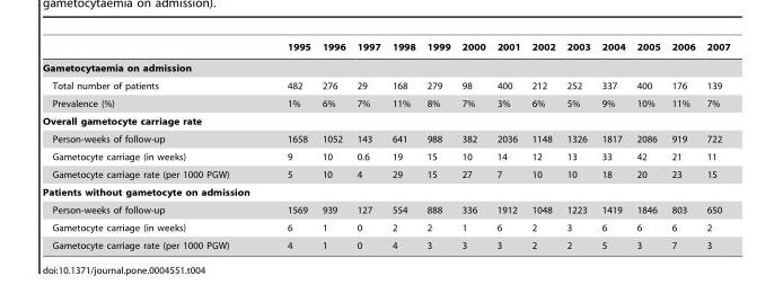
<table><thead><tr><td></td><td>1995</td><td>1996</td><td>1997</td><td>1998</td><td>1999</td><td>2000</td><td>2001</td><td>2002</td><td>2003</td><td>2004</td><td>2005</td><td>2006</td><td>2007</td></tr></thead><tbody><tr><td colspan="14">Gametocytaemia on admission</td></tr><tr><td>Total number of patients</td><td>482</td><td>276</td><td>29</td><td>168</td><td>279</td><td>98</td><td>400</td><td>212</td><td>252</td><td>337</td><td>400</td><td>176</td><td>139</td></tr><tr><td>Prevalence (%)</td><td>1%</td><td>6%</td><td>7%</td><td>11%</td><td>8%</td><td>7%</td><td>3%</td><td>6%</td><td>5%</td><td>9%</td><td>10%</td><td>11%</td><td>7%</td></tr><tr><td colspan="14">Overall gametocyte carriage rate</td></tr><tr><td>Person-weeks of follow-up</td><td>1658</td><td>1052</td><td>143</td><td>641</td><td>988</td><td>382</td><td>2036</td><td>1148</td><td>1326</td><td>1817</td><td>2086</td><td>919</td><td>722</td></tr><tr><td>Gametocyte carriage (in weeks)</td><td>9</td><td>10</td><td>0.6</td><td>19</td><td>15</td><td>10</td><td>14</td><td>12</td><td>13</td><td>33</td><td>42</td><td>21</td><td>11</td></tr><tr><td>Gametocyte carriage rate (per 1000 PGW)</td><td>5</td><td>10</td><td>4</td><td>29</td><td>15</td><td>27</td><td>7</td><td>10</td><td>10</td><td>18</td><td>20</td><td>23</td><td>15</td></tr><tr><td colspan="14">Patients without gametocyte on admission</td></tr><tr><td>Person-weeks of follow-up</td><td>1569</td><td>939</td><td>127</td><td>554</td><td>888</td><td>336</td><td>1912</td><td>1048</td><td>1223</td><td>1419</td><td>1846</td><td>803</td><td>650</td></tr><tr><td>Gametocyte carriage (in weeks)</td><td>6</td><td>1</td><td>0</td><td>2</td><td>2</td><td>1</td><td>6</td><td>2</td><td>3</td><td>6</td><td>6</td><td>6</td><td>2</td></tr><tr><td>Gametocyte carriage rate (per 1000 PGW)</td><td>4</td><td>1</td><td>0</td><td>4</td><td>3</td><td>3</td><td>3</td><td>2</td><td>2</td><td>5</td><td>3</td><td>7</td><td>3</td></tr></tbody></table>